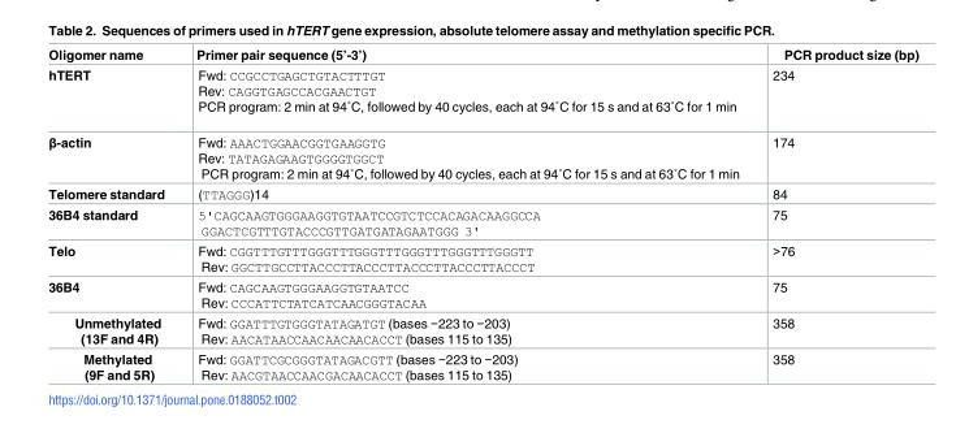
<table><thead><tr><td>Oligomer name</td><td>Primer pair sequence (5’-3’)</td><td>PCR product size (bp)</td></tr></thead><tbody><tr><td>hTERT</td><td>Fwd: CCGCCTGAGCTGTACTTTGT Rev: CAGGTGAGCCACGAACTGT PCR program: 2 min at 94˚C, followed by 40 cycles, each at 94˚C for 15 s and at 63˚C for 1 min</td><td>234</td></tr><tr><td>β-actin</td><td>Fwd: AAACTGGAACGGTGAAGGTG Rev: TATAGAGAAGTGGGGTGGCT PCR program: 2 min at 94˚C, followed by 40 cycles, each at 94˚C for 15 s and at 63˚C for 1 min</td><td>174</td></tr><tr><td>Telomere standard</td><td>(TTAGGG)14</td><td>84</td></tr><tr><td>36B4 standard</td><td>5&#x27;CAGCAAGTGGGAAGGTGTAATCCGTCTCCACAGACAAGGCCA GGACTCGTTTGTACCCGTTGATGATAGAATGGG 3&#x27;</td><td>75</td></tr><tr><td>Telo</td><td>Fwd: CGGTTTGTTTGGGTTTGGGTTTGGGTTTGGGTTTGGGTT Rev: GGCTTGCCTTACCCTTACCCTTACCCTTACCCTTACCCT</td><td>&gt;76</td></tr><tr><td>36B4</td><td>Fwd: CAGCAAGTGGGAAGGTGTAATCC Rev: CCCATTCTATCATCAACGGGTACAA</td><td>75</td></tr><tr><td>Unmethylated (13F and 4R)</td><td>Fwd: GGATTTGTGGGTATAGATGT (bases −223 to −203) Rev: AACATAACCAACAACAACACCT (bases 115 to 135)</td><td>358</td></tr><tr><td>Methylated (9F and 5R)</td><td>Fwd: GGATTCGCGGGTATAGACGTT (bases −223 to −203) Rev: AACGTAACCAACGACAACACCT (bases 115 to 135)</td><td>358</td></tr></tbody></table>